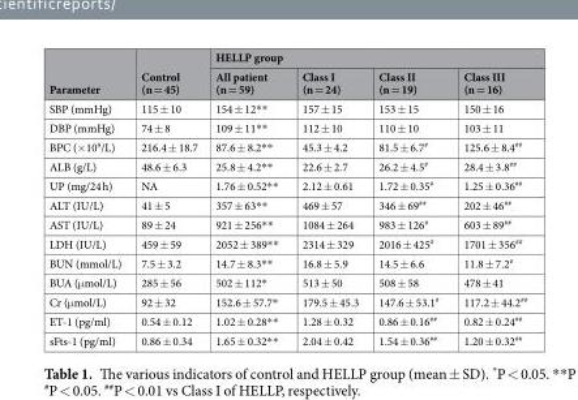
<table><thead><tr><td rowspan="2">Parameter</td><td rowspan="2">Control (n = 45)</td><td colspan="4">HELLP group</td></tr><tr><td>All patient (n = 59)</td><td>Class I (n = 24)</td><td>Class II (n = 19)</td><td>Class III (n = 16)</td></tr></thead><tbody><tr><td>SBP (mmHg)</td><td>115 ± 10</td><td>154 ± 12**</td><td>157 ± 15</td><td>153 ± 15</td><td>150 ± 16</td></tr><tr><td>DBP (mmHg)</td><td>74 ± 8</td><td>109 ± 11**</td><td>112 ± 10</td><td>110 ± 10</td><td>103 ± 11</td></tr><tr><td>BPC (×10<sup>9</sup>/L)</td><td>216.4 ± 18.7</td><td>87.6 ± 8.2**</td><td>45.3 ± 4.2</td><td>81.5 ± 6.7<sup>#</sup></td><td>125.6 ± 8.4<sup>##</sup></td></tr><tr><td>ALB (g/L)</td><td>48.6 ± 6.3</td><td>25.8 ± 4.2**</td><td>22.6 ± 2.7</td><td>26.2 ± 4.5<sup>#</sup></td><td>28.4 ± 3.8<sup>##</sup></td></tr><tr><td>UP (mg/24 h)</td><td>NA</td><td>1.76 ± 0.52**</td><td>2.12 ± 0.61</td><td>1.72 ± 0.35<sup>#</sup></td><td>1.25 ± 0.36<sup>##</sup></td></tr><tr><td>ALT (IU/L)</td><td>41 ± 5</td><td>357 ± 63**</td><td>469 ± 57</td><td>346 ± 69<sup>##</sup></td><td>202 ± 46<sup>##</sup></td></tr><tr><td>AST (IU/L)</td><td>89 ± 24</td><td>921 ± 256**</td><td>1084 ± 264</td><td>983 ± 126<sup>#</sup></td><td>603 ± 89<sup>##</sup></td></tr><tr><td>LDH (IU/L)</td><td>459 ± 59</td><td>2052 ± 389**</td><td>2314 ± 329</td><td>2016 ± 425<sup>#</sup></td><td>1701 ± 356<sup>##</sup></td></tr><tr><td>BUN (mmol/L)</td><td>7.5 ± 3.2</td><td>14.7 ± 8.3**</td><td>16.8 ± 5.9</td><td>14.5 ± 6.6</td><td>11.8 ± 7.2<sup>#</sup></td></tr><tr><td>BUA (μmol/L)</td><td>285 ± 56</td><td>502 ± 112*</td><td>513 ± 50</td><td>508 ± 58</td><td>478 ± 41</td></tr><tr><td>Cr (μmol/L)</td><td>92 ± 32</td><td>152.6 ± 57.7*</td><td>179.5 ± 45.3</td><td>147.6 ± 53.1<sup>#</sup></td><td>117.2 ± 44.2<sup>##</sup></td></tr><tr><td>ET-1 (pg/ml)</td><td>0.54 ± 0.12</td><td>1.02 ± 0.28**</td><td>1.28 ± 0.32</td><td>0.86 ± 0.16<sup>##</sup></td><td>0.82 ± 0.24<sup>##</sup></td></tr><tr><td>sFts-1 (pg/ml)</td><td>0.86 ± 0.34</td><td>1.65 ± 0.32**</td><td>2.04 ± 0.42</td><td>1.54 ± 0.36<sup>##</sup></td><td>1.20 ± 0.32<sup>##</sup></td></tr></tbody></table>